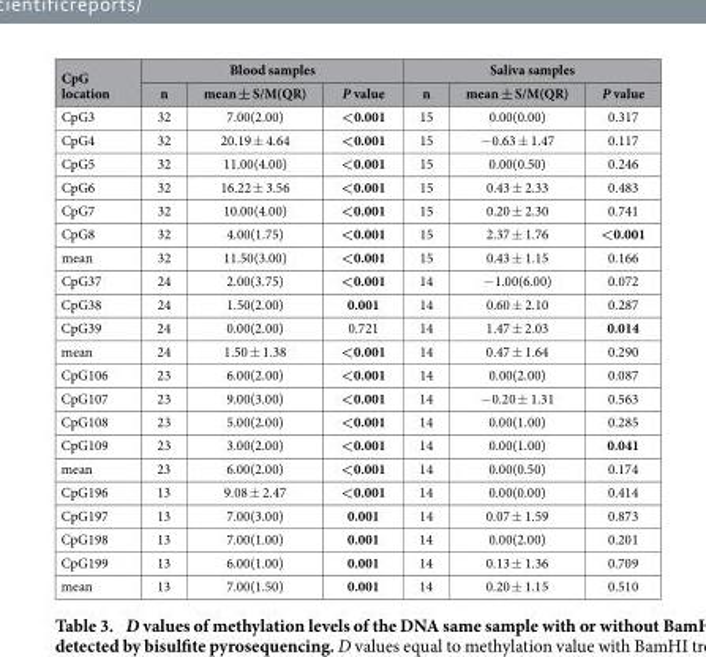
<table><thead><tr><td rowspan="2">CpG location</td><td colspan="3">Blood samples</td><td colspan="3">Saliva samples</td></tr><tr><td>n</td><td>mean ± S/M(QR)</td><td>P value</td><td>n</td><td>mean ± S/M(QR)</td><td>P value</td></tr></thead><tbody><tr><td>CpG3</td><td>32</td><td>7.00(2.00)</td><td>&lt;0.001</td><td>15</td><td>0.00(0.00)</td><td>0.317</td></tr><tr><td>CpG4</td><td>32</td><td>20.19 ± 4.64</td><td>&lt;0.001</td><td>15</td><td>− 0.63 ± 1.47</td><td>0.117</td></tr><tr><td>CpG5</td><td>32</td><td>11.00(4.00)</td><td>&lt;0.001</td><td>15</td><td>0.00(0.50)</td><td>0.246</td></tr><tr><td>CpG6</td><td>32</td><td>16.22 ± 3.56</td><td>&lt;0.001</td><td>15</td><td>0.43 ± 2.33</td><td>0.483</td></tr><tr><td>CpG7</td><td>32</td><td>10.00(4.00)</td><td>&lt;0.001</td><td>15</td><td>0.20 ± 2.30</td><td>0.741</td></tr><tr><td>CpG8</td><td>32</td><td>4.00(1.75)</td><td>&lt;0.001</td><td>15</td><td>2.37 ± 1.76</td><td>&lt;0.001</td></tr><tr><td>mean</td><td>32</td><td>11.50(3.00)</td><td>&lt;0.001</td><td>15</td><td>0.43 ± 1.15</td><td>0.166</td></tr><tr><td>CpG37</td><td>24</td><td>2.00(3.75)</td><td>&lt;0.001</td><td>14</td><td>− 1.00(6.00)</td><td>0.072</td></tr><tr><td>CpG38</td><td>24</td><td>1.50(2.00)</td><td>0.001</td><td>14</td><td>0.60 ± 2.10</td><td>0.287</td></tr><tr><td>CpG39</td><td>24</td><td>0.00(2.00)</td><td>0.721</td><td>14</td><td>1.47 ± 2.03</td><td>0.014</td></tr><tr><td>mean</td><td>24</td><td>1.50 ± 1.38</td><td>&lt;0.001</td><td>14</td><td>0.47 ± 1.64</td><td>0.290</td></tr><tr><td>CpG106</td><td>23</td><td>6.00(2.00)</td><td>&lt;0.001</td><td>14</td><td>0.00(2.00)</td><td>0.087</td></tr><tr><td>CpG107</td><td>23</td><td>9.00(3.00)</td><td>&lt;0.001</td><td>14</td><td>− 0.20 ± 1.31</td><td>0.563</td></tr><tr><td>CpG108</td><td>23</td><td>5.00(2.00)</td><td>&lt;0.001</td><td>14</td><td>0.00(1.00)</td><td>0.285</td></tr><tr><td>CpG109</td><td>23</td><td>3.00(2.00)</td><td>&lt;0.001</td><td>14</td><td>0.00(1.00)</td><td>0.041</td></tr><tr><td>mean</td><td>23</td><td>6.00(2.00)</td><td>&lt;0.001</td><td>14</td><td>0.00(0.50)</td><td>0.174</td></tr><tr><td>CpG196</td><td>13</td><td>9.08 ± 2.47</td><td>&lt;0.001</td><td>14</td><td>0.00(0.00)</td><td>0.414</td></tr><tr><td>CpG197</td><td>13</td><td>7.00(3.00)</td><td>0.001</td><td>14</td><td>0.07 ± 1.59</td><td>0.873</td></tr><tr><td>CpG198</td><td>13</td><td>7.00(1.00)</td><td>0.001</td><td>14</td><td>0.00(2.00)</td><td>0.201</td></tr><tr><td>CpG199</td><td>13</td><td>6.00(1.00)</td><td>0.001</td><td>14</td><td>0.13 ± 1.36</td><td>0.709</td></tr><tr><td>mean</td><td>13</td><td>7.00(1.50)</td><td>0.001</td><td>14</td><td>0.20 ± 1.15</td><td>0.510</td></tr></tbody></table>